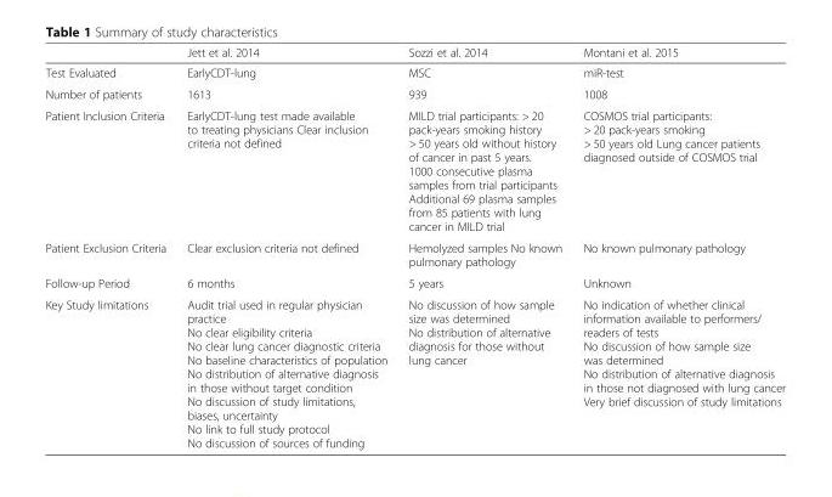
<table><thead><tr><td></td><td>Jett et al. 2014</td><td>Sozzi et al. 2014</td><td>Montani et al. 2015</td></tr></thead><tbody><tr><td>Test Evaluated</td><td>EarlyCDT-lung</td><td>MSC</td><td>miR-test</td></tr><tr><td>Number of patients</td><td>1613</td><td>939</td><td>1008</td></tr><tr><td>Patient Inclusion Criteria</td><td>EarlyCDT-lung test made available to treating physicians Clear inclusion criteria not defined</td><td>MILD trial participants: &gt; 20 pack-years smoking history &gt; 50 years old without history of cancer in past 5 years. 1000 consecutive plasma samples from trial participants Additional 69 plasma samples from 85 patients with lung cancer in MILD trial</td><td>COSMOS trial participants: &gt; 20 pack-years smoking &gt; 50 years old Lung cancer patients diagnosed outside of COSMOS trial</td></tr><tr><td>Patient Exclusion Criteria</td><td>Clear exclusion criteria not defined</td><td>Hemolyzed samples No known pulmonary pathology</td><td>No known pulmonary pathology</td></tr><tr><td>Follow-up Period</td><td>6 months</td><td>5 years</td><td>Unknown</td></tr><tr><td>Key Study limitations</td><td>Audit trial used in regular physician practice No clear eligibility criteria No clear lung cancer diagnostic criteria No baseline characteristics of population No distribution of alternative diagnosis in those without target condition No discussion of study limitations, biases, uncertainty No link to full study protocol No discussion of sources of funding</td><td>No discussion of how sample size was determined No distribution of alternative diagnosis for those without lung cancer</td><td>No indication of whether clinical information available to performers/ readers of tests No discussion of how sample size was determined No distribution of alternative diagnosis in those not diagnosed with lung cancer Very brief discussion of study limitations</td></tr></tbody></table>